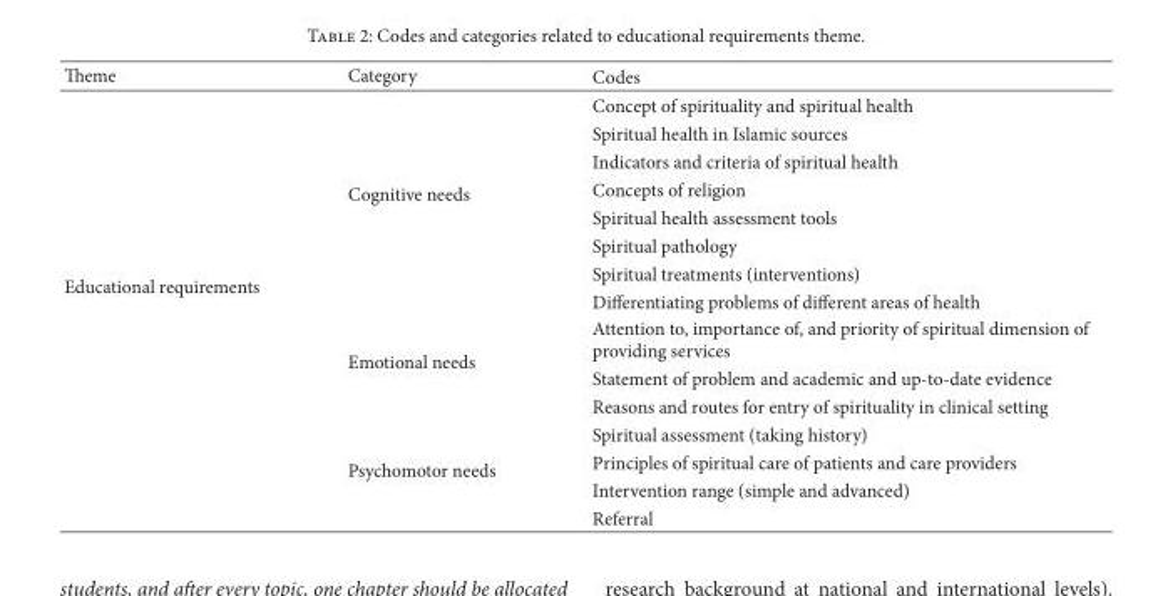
<table><thead><tr><td>Theme</td><td>Category</td><td>Codes</td></tr></thead><tbody><tr><td rowspan="15">Educational requirements</td><td rowspan="8">Cognitive needs</td><td>Concept of spirituality and spiritual health</td></tr><tr><td>Spiritual health in Islamic sources</td></tr><tr><td>Indicators and criteria of spiritual health</td></tr><tr><td>Concepts of religion</td></tr><tr><td>Spiritual health assessment tools</td></tr><tr><td>Spiritual pathology</td></tr><tr><td>Spiritual treatments (interventions)</td></tr><tr><td>Differentiating problems of different areas of health</td></tr><tr><td rowspan="3">Emotional needs</td><td>Attention to, importance of, and priority of spiritual dimension of providing services</td></tr><tr><td>Statement of problem and academic and up-to-date evidence</td></tr><tr><td>Reasons and routes for entry of spirituality in clinical setting</td></tr><tr><td rowspan="4">Psychomotor needs</td><td>Spiritual assessment (taking history)</td></tr><tr><td>Principles of spiritual care of patients and care providers</td></tr><tr><td>Intervention range (simple and advanced)</td></tr><tr><td>Referral</td></tr></tbody></table>